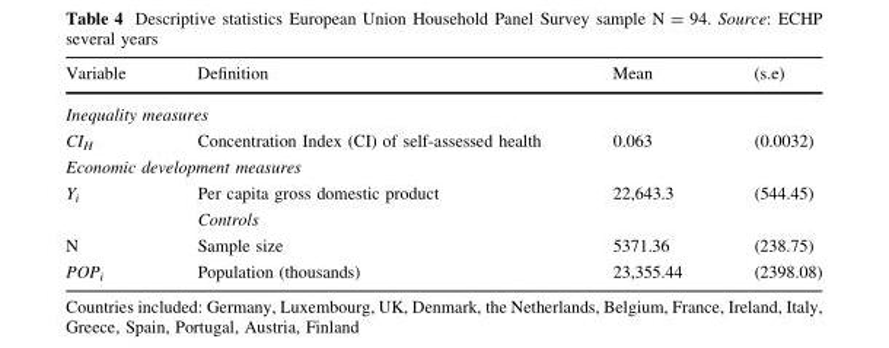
<table><thead><tr><td>Variable</td><td>Definition</td><td>Mean</td><td>(s.e)</td></tr></thead><tbody><tr><td colspan="4">Inequality measures</td></tr><tr><td>CI<sub>H</sub></td><td>Concentration Index (CI) of self-assessed health</td><td>0.063</td><td>(0.0032)</td></tr><tr><td colspan="4">Economic development measures</td></tr><tr><td rowspan="2">Y<sub>i</sub></td><td>Per capita gross domestic product</td><td>22,643.3</td><td>(544.45)</td></tr><tr><td>Controls</td><td></td><td></td></tr><tr><td>N</td><td>Sample size</td><td>5371.36</td><td>(238.75)</td></tr><tr><td>POP<sub>i</sub></td><td>Population (thousands)</td><td>23,355.44</td><td>(2398.08)</td></tr></tbody></table>